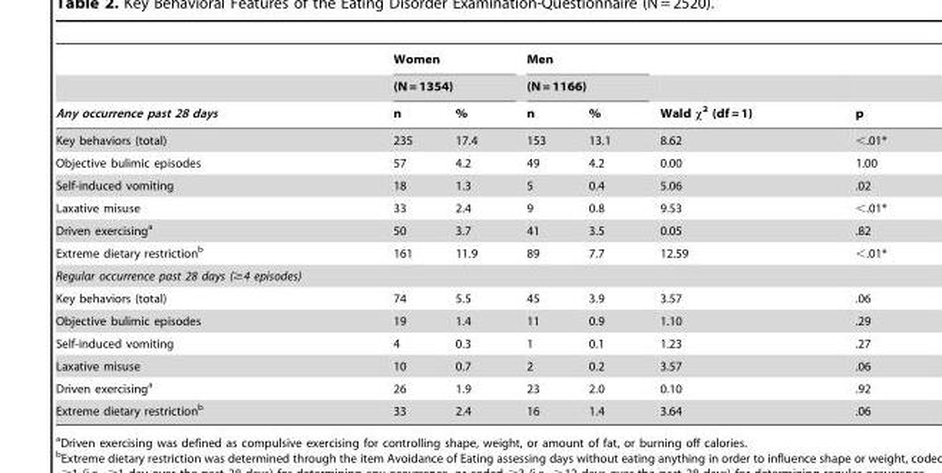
<table><thead><tr><td rowspan="3">Any occurrence past 28 days</td><td rowspan="2" colspan="2">Women (N = 1354)</td><td rowspan="2" colspan="2">Men (N = 1166)</td><td rowspan="3">Wald χ<sup>2</sup> (df = 1)</td><td rowspan="3">p</td></tr><tr></tr><tr><td>n</td><td>%</td><td>n</td><td>%</td></tr></thead><tbody><tr><td>Key behaviors (total)</td><td>235</td><td>17.4</td><td>153</td><td>13.1</td><td>8.62</td><td>&lt;.01*</td></tr><tr><td>Objective bulimic episodes</td><td>57</td><td>4.2</td><td>49</td><td>4.2</td><td>0.00</td><td>1.00</td></tr><tr><td>Self-induced vomiting</td><td>18</td><td>1.3</td><td>5</td><td>0.4</td><td>5.06</td><td>.02</td></tr><tr><td>Laxative misuse</td><td>33</td><td>2.4</td><td>9</td><td>0.8</td><td>9.53</td><td>&lt;.01*</td></tr><tr><td>Driven exercising<sup>a</sup></td><td>50</td><td>3.7</td><td>41</td><td>3.5</td><td>0.05</td><td>.82</td></tr><tr><td>Extreme dietary restriction<sup>b</sup></td><td>161</td><td>11.9</td><td>89</td><td>7.7</td><td>12.59</td><td>&lt;.01*</td></tr><tr><td colspan="7">Regular occurrence past 28 days (≥4 episodes)</td></tr><tr><td>Key behaviors (total)</td><td>74</td><td>5.5</td><td>45</td><td>3.9</td><td>3.57</td><td>.06</td></tr><tr><td>Objective bulimic episodes</td><td>19</td><td>1.4</td><td>11</td><td>0.9</td><td>1.10</td><td>.29</td></tr><tr><td>Self-induced vomiting</td><td>4</td><td>0.3</td><td>1</td><td>0.1</td><td>1.23</td><td>.27</td></tr><tr><td>Laxative misuse</td><td>10</td><td>0.7</td><td>2</td><td>0.2</td><td>3.57</td><td>.06</td></tr><tr><td>Driven exercising<sup>a</sup></td><td>26</td><td>1.9</td><td>23</td><td>2.0</td><td>0.10</td><td>.92</td></tr><tr><td>Extreme dietary restriction<sup>b</sup></td><td>33</td><td>2.4</td><td>16</td><td>1.4</td><td>3.64</td><td>.06</td></tr></tbody></table>